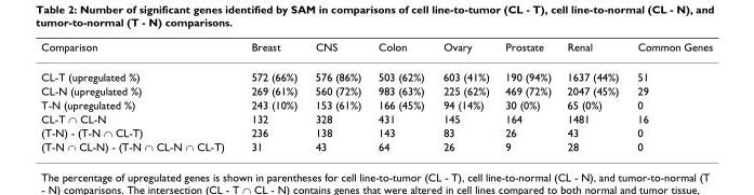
<table><thead><tr><td>Comparison</td><td>Breast</td><td>CNS</td><td>Colon</td><td>Ovary</td><td>Prostate</td><td>Renal</td><td>Common Genes</td></tr></thead><tbody><tr><td>CL-T (upregulated %)</td><td>572 (66%)</td><td>576 (86%)</td><td>503 (62%)</td><td>603 (41%)</td><td>190 (94%)</td><td>1637 (44%)</td><td>51</td></tr><tr><td>CL-N (upregulated %)</td><td>269 (61%)</td><td>560 (72%)</td><td>983 (63%)</td><td>225 (62%)</td><td>469 (72%)</td><td>2047 (45%)</td><td>29</td></tr><tr><td>T-N (upregulated %)</td><td>243 (10%)</td><td>153 (61%)</td><td>166 (45%)</td><td>94 (14%)</td><td>30 (0%)</td><td>65 (0%)</td><td>0</td></tr><tr><td>CL-T ∩ CL-N</td><td>132</td><td>328</td><td>431</td><td>145</td><td>164</td><td>1481</td><td>16</td></tr><tr><td>(T-N) - (T-N ∩ CL-T)</td><td>236</td><td>138</td><td>143</td><td>83</td><td>26</td><td>43</td><td>0</td></tr><tr><td>(T-N ∩ CL-N) - (T-N ∩ CL-N ∩ CL-T)</td><td>31</td><td>43</td><td>64</td><td>26</td><td>9</td><td>28</td><td>0</td></tr></tbody></table>